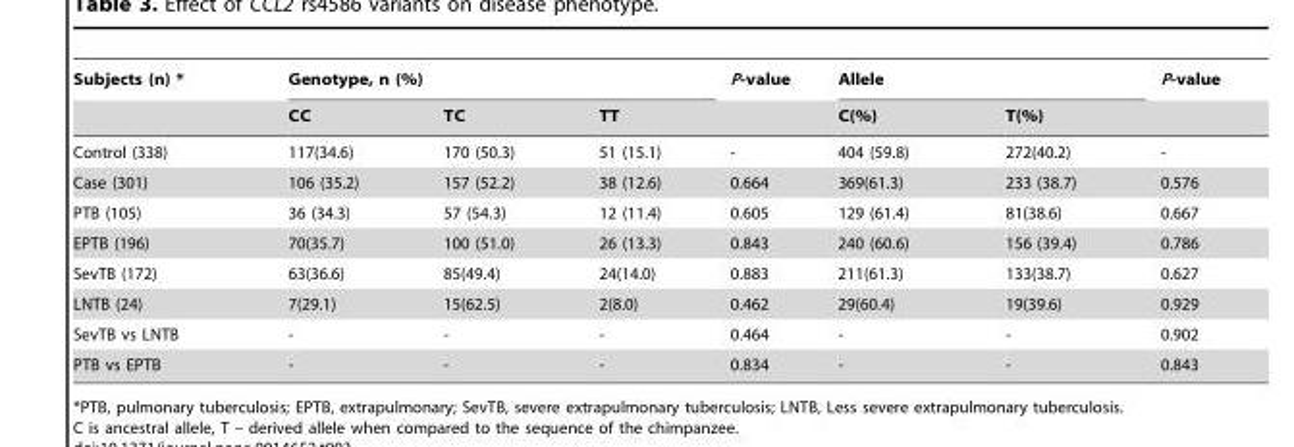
<table><thead><tr><td rowspan="2">Subjects (n) *</td><td colspan="3">Genotype, n (%)</td><td rowspan="2">P-value</td><td colspan="2">Allele</td><td rowspan="2">P-value</td></tr><tr><td>CC</td><td>TC</td><td>TT</td><td>C(%)</td><td>T(%)</td></tr></thead><tbody><tr><td>Control (338)</td><td>117(34.6)</td><td>170 (50.3)</td><td>51 (15.1)</td><td>-</td><td>404 (59.8)</td><td>272(40.2)</td><td>-</td></tr><tr><td>Case (301)</td><td>106 (35.2)</td><td>157 (52.2)</td><td>38 (12.6)</td><td>0.664</td><td>369(61.3)</td><td>233 (38.7)</td><td>0.576</td></tr><tr><td>PTB (105)</td><td>36 (34.3)</td><td>57 (54.3)</td><td>12 (11.4)</td><td>0.605</td><td>129 (61.4)</td><td>81(38.6)</td><td>0.667</td></tr><tr><td>EPTB (196)</td><td>70(35.7)</td><td>100 (51.0)</td><td>26 (13.3)</td><td>0.843</td><td>240 (60.6)</td><td>156 (39.4)</td><td>0.786</td></tr><tr><td>SevTB (172)</td><td>63(36.6)</td><td>85(49.4)</td><td>24(14.0)</td><td>0.883</td><td>211(61.3)</td><td>133(38.7)</td><td>0.627</td></tr><tr><td>LNTB (24)</td><td>7(29.1)</td><td>15(62.5)</td><td>2(8.0)</td><td>0.462</td><td>29(60.4)</td><td>19(39.6)</td><td>0.929</td></tr><tr><td>SevTB vs LNTB</td><td>-</td><td>-</td><td>-</td><td>0.464</td><td>-</td><td>-</td><td>0.902</td></tr><tr><td>PTB vs EPTB</td><td>-</td><td>-</td><td>-</td><td>0.834</td><td>-</td><td>-</td><td>0.843</td></tr></tbody></table>